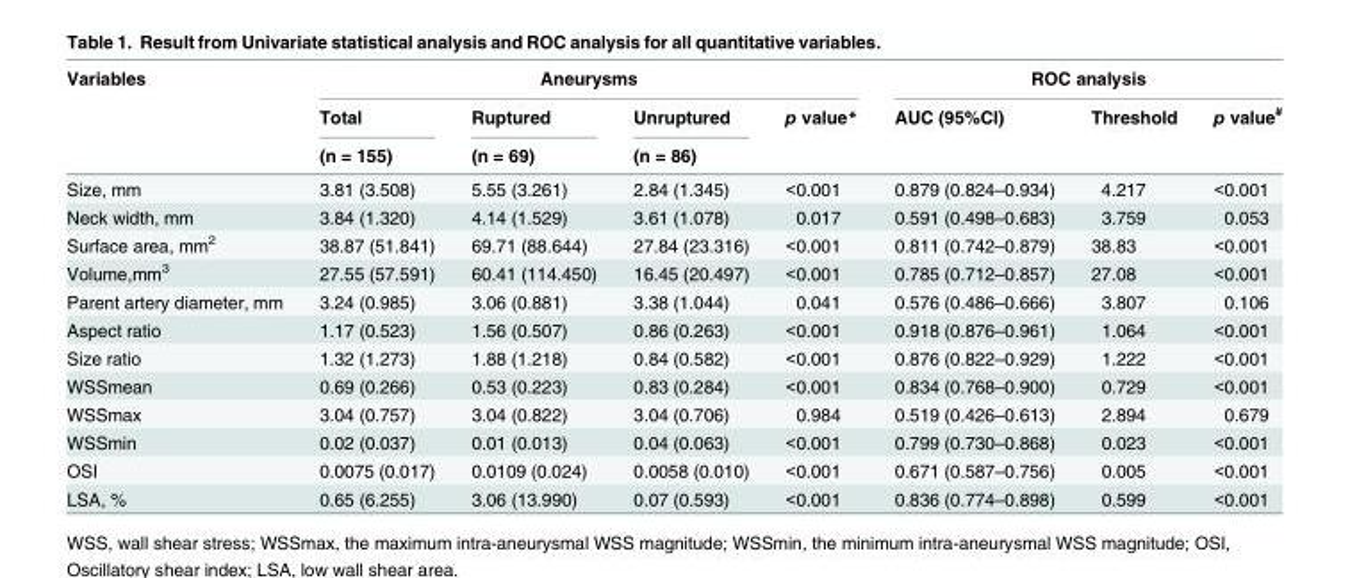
<table><thead><tr><td rowspan="3">Variables</td><td colspan="4">Aneurysms</td><td colspan="3">ROC analysis</td></tr><tr><td rowspan="2">Total (n = 155)</td><td rowspan="2">Ruptured (n = 69)</td><td rowspan="2">Unruptured (n = 86)</td><td rowspan="2">p value*</td><td rowspan="2">AUC (95%CI)</td><td rowspan="2">Threshold</td><td rowspan="2">p value<sup>#</sup></td></tr><tr></tr></thead><tbody><tr><td>Size, mm</td><td>3.81 (3.508)</td><td>5.55 (3.261)</td><td>2.84 (1.345)</td><td>&lt;0.001</td><td>0.879 (0.824–0.934)</td><td>4.217</td><td>&lt;0.001</td></tr><tr><td>Neck width, mm</td><td>3.84 (1.320)</td><td>4.14 (1.529)</td><td>3.61 (1.078)</td><td>0.017</td><td>0.591 (0.498–0.683)</td><td>3.759</td><td>0.053</td></tr><tr><td>Surface area, mm<sup>2</sup></td><td>38.87 (51.841)</td><td>69.71 (88.644)</td><td>27.84 (23.316)</td><td>&lt;0.001</td><td>0.811 (0.742–0.879)</td><td>38.83</td><td>&lt;0.001</td></tr><tr><td>Volume,mm<sup>3</sup></td><td>27.55 (57.591)</td><td>60.41 (114.450)</td><td>16.45 (20.497)</td><td>&lt;0.001</td><td>0.785 (0.712–0.857)</td><td>27.08</td><td>&lt;0.001</td></tr><tr><td>Parent artery diameter, mm</td><td>3.24 (0.985)</td><td>3.06 (0.881)</td><td>3.38 (1.044)</td><td>0.041</td><td>0.576 (0.486–0.666)</td><td>3.807</td><td>0.106</td></tr><tr><td>Aspect ratio</td><td>1.17 (0.523)</td><td>1.56 (0.507)</td><td>0.86 (0.263)</td><td>&lt;0.001</td><td>0.918 (0.876–0.961)</td><td>1.064</td><td>&lt;0.001</td></tr><tr><td>Size ratio</td><td>1.32 (1.273)</td><td>1.88 (1.218)</td><td>0.84 (0.582)</td><td>&lt;0.001</td><td>0.876 (0.822–0.929)</td><td>1.222</td><td>&lt;0.001</td></tr><tr><td>WSSmean</td><td>0.69 (0.266)</td><td>0.53 (0.223)</td><td>0.83 (0.284)</td><td>&lt;0.001</td><td>0.834 (0.768–0.900)</td><td>0.729</td><td>&lt;0.001</td></tr><tr><td>WSSmax</td><td>3.04 (0.757)</td><td>3.04 (0.822)</td><td>3.04 (0.706)</td><td>0.984</td><td>0.519 (0.426–0.613)</td><td>2.894</td><td>0.679</td></tr><tr><td>WSSmin</td><td>0.02 (0.037)</td><td>0.01 (0.013)</td><td>0.04 (0.063)</td><td>&lt;0.001</td><td>0.799 (0.730–0.868)</td><td>0.023</td><td>&lt;0.001</td></tr><tr><td>OSI</td><td>0.0075 (0.017)</td><td>0.0109 (0.024)</td><td>0.0058 (0.010)</td><td>&lt;0.001</td><td>0.671 (0.587–0.756)</td><td>0.005</td><td>&lt;0.001</td></tr><tr><td>LSA, %</td><td>0.65 (6.255)</td><td>3.06 (13.990)</td><td>0.07 (0.593)</td><td>&lt;0.001</td><td>0.836 (0.774–0.898)</td><td>0.599</td><td>&lt;0.001</td></tr></tbody></table>